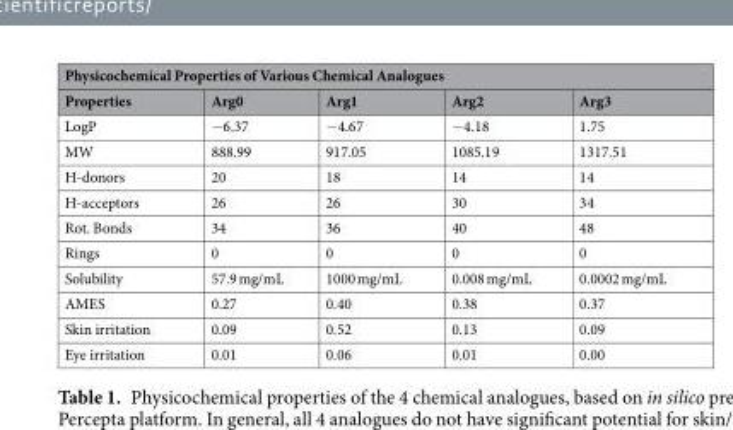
<table><thead><tr><td colspan="5">Physicochemical Properties of Various Chemical Analogues</td></tr><tr><td>Properties</td><td>Arg0</td><td>Arg1</td><td>Arg2</td><td>Arg3</td></tr></thead><tbody><tr><td>LogP</td><td>−6.37</td><td>−4.67</td><td>−4.18</td><td>1.75</td></tr><tr><td>MW</td><td>888.99</td><td>917.05</td><td>1085.19</td><td>1317.51</td></tr><tr><td>H-donors</td><td>20</td><td>18</td><td>14</td><td>14</td></tr><tr><td>H-acceptors</td><td>26</td><td>26</td><td>30</td><td>34</td></tr><tr><td>Rot. Bonds</td><td>34</td><td>36</td><td>40</td><td>48</td></tr><tr><td>Rings</td><td>0</td><td>0</td><td>0</td><td>0</td></tr><tr><td>Solubility</td><td>57.9 mg/mL</td><td>1000 mg/mL</td><td>0.008 mg/mL</td><td>0.0002 mg/mL</td></tr><tr><td>AMES</td><td>0.27</td><td>0.40</td><td>0.38</td><td>0.37</td></tr><tr><td>Skin irritation</td><td>0.09</td><td>0.52</td><td>0.13</td><td>0.09</td></tr><tr><td>Eye irritation</td><td>0.01</td><td>0.06</td><td>0.01</td><td>0.00</td></tr></tbody></table>